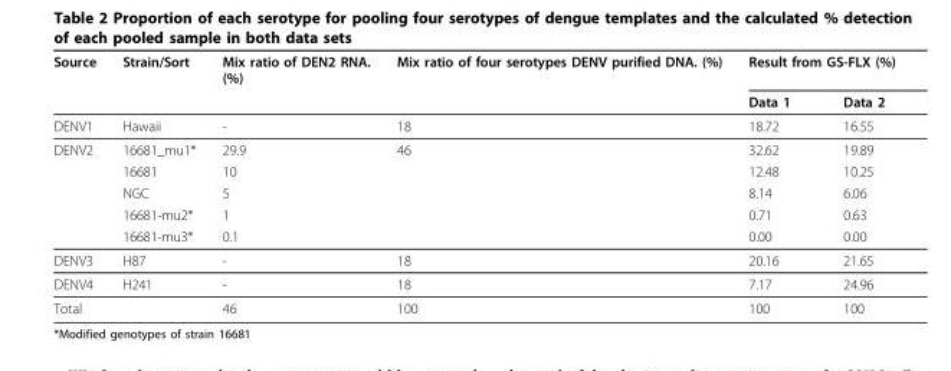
<table><thead><tr><td rowspan="2">Source</td><td rowspan="2">Strain/Sort</td><td rowspan="2">Mix ratio of DEN2 RNA. (%)</td><td rowspan="2">Mix ratio of four serotypes DENV purified DNA. (%)</td><td colspan="2">Result from GS-FLX (%)</td></tr><tr><td>Data 1</td><td>Data 2</td></tr></thead><tbody><tr><td>DENV1</td><td>Hawaii</td><td>-</td><td>18</td><td>18.72</td><td>16.55</td></tr><tr><td rowspan="5">DENV2</td><td>16681_mu1*</td><td>29.9</td><td>46</td><td>32.62</td><td>19.89</td></tr><tr><td>16681</td><td>10</td><td></td><td>12.48</td><td>10.25</td></tr><tr><td>NGC</td><td>5</td><td></td><td>8.14</td><td>6.06</td></tr><tr><td>16681-mu2*</td><td>1</td><td></td><td>0.71</td><td>0.63</td></tr><tr><td>16681-mu3*</td><td>0.1</td><td></td><td>0.00</td><td>0.00</td></tr><tr><td>DENV3</td><td>H87</td><td>-</td><td>18</td><td>20.16</td><td>21.65</td></tr><tr><td>DENV4</td><td>H241</td><td>-</td><td>18</td><td>7.17</td><td>24.96</td></tr><tr><td>Total</td><td></td><td>46</td><td>100</td><td>100</td><td>100</td></tr></tbody></table>